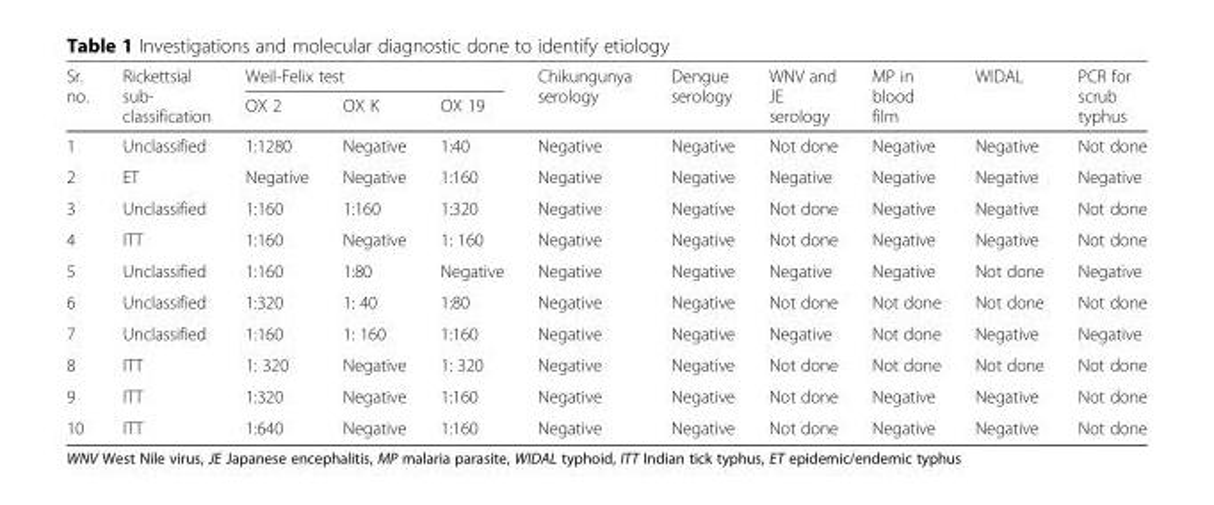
<table><thead><tr><td rowspan="2">Sr. no.</td><td rowspan="2">Rickettsial sub- classification</td><td colspan="3">Weil-Felix test</td><td rowspan="2">Chikungunya serology</td><td rowspan="2">Dengue serology</td><td rowspan="2">WNV and JE serology</td><td rowspan="2">MP in blood film</td><td rowspan="2">WIDAL</td><td rowspan="2">PCR for scrub typhus</td></tr><tr><td>OX 2</td><td>OX K</td><td>OX 19</td></tr></thead><tbody><tr><td>1</td><td>Unclassified</td><td>1:1280</td><td>Negative</td><td>1:40</td><td>Negative</td><td>Negative</td><td>Not done</td><td>Negative</td><td>Negative</td><td>Not done</td></tr><tr><td>2</td><td>ET</td><td>Negative</td><td>Negative</td><td>1:160</td><td>Negative</td><td>Negative</td><td>Negative</td><td>Negative</td><td>Negative</td><td>Negative</td></tr><tr><td>3</td><td>Unclassified</td><td>1:160</td><td>1:160</td><td>1:320</td><td>Negative</td><td>Negative</td><td>Not done</td><td>Negative</td><td>Negative</td><td>Not done</td></tr><tr><td>4</td><td>ITT</td><td>1:160</td><td>Negative</td><td>1: 160</td><td>Negative</td><td>Negative</td><td>Not done</td><td>Negative</td><td>Negative</td><td>Not done</td></tr><tr><td>5</td><td>Unclassified</td><td>1:160</td><td>1:80</td><td>Negative</td><td>Negative</td><td>Negative</td><td>Negative</td><td>Negative</td><td>Not done</td><td>Negative</td></tr><tr><td>6</td><td>Unclassified</td><td>1:320</td><td>1: 40</td><td>1:80</td><td>Negative</td><td>Negative</td><td>Not done</td><td>Not done</td><td>Not done</td><td>Not done</td></tr><tr><td>7</td><td>Unclassified</td><td>1:160</td><td>1: 160</td><td>1:160</td><td>Negative</td><td>Negative</td><td>Negative</td><td>Not done</td><td>Negative</td><td>Negative</td></tr><tr><td>8</td><td>ITT</td><td>1: 320</td><td>Negative</td><td>1: 320</td><td>Negative</td><td>Negative</td><td>Not done</td><td>Not done</td><td>Not done</td><td>Not done</td></tr><tr><td>9</td><td>ITT</td><td>1:320</td><td>Negative</td><td>1:160</td><td>Negative</td><td>Negative</td><td>Not done</td><td>Negative</td><td>Negative</td><td>Not done</td></tr><tr><td>10</td><td>ITT</td><td>1:640</td><td>Negative</td><td>1:160</td><td>Negative</td><td>Negative</td><td>Not done</td><td>Negative</td><td>Negative</td><td>Not done</td></tr></tbody></table>